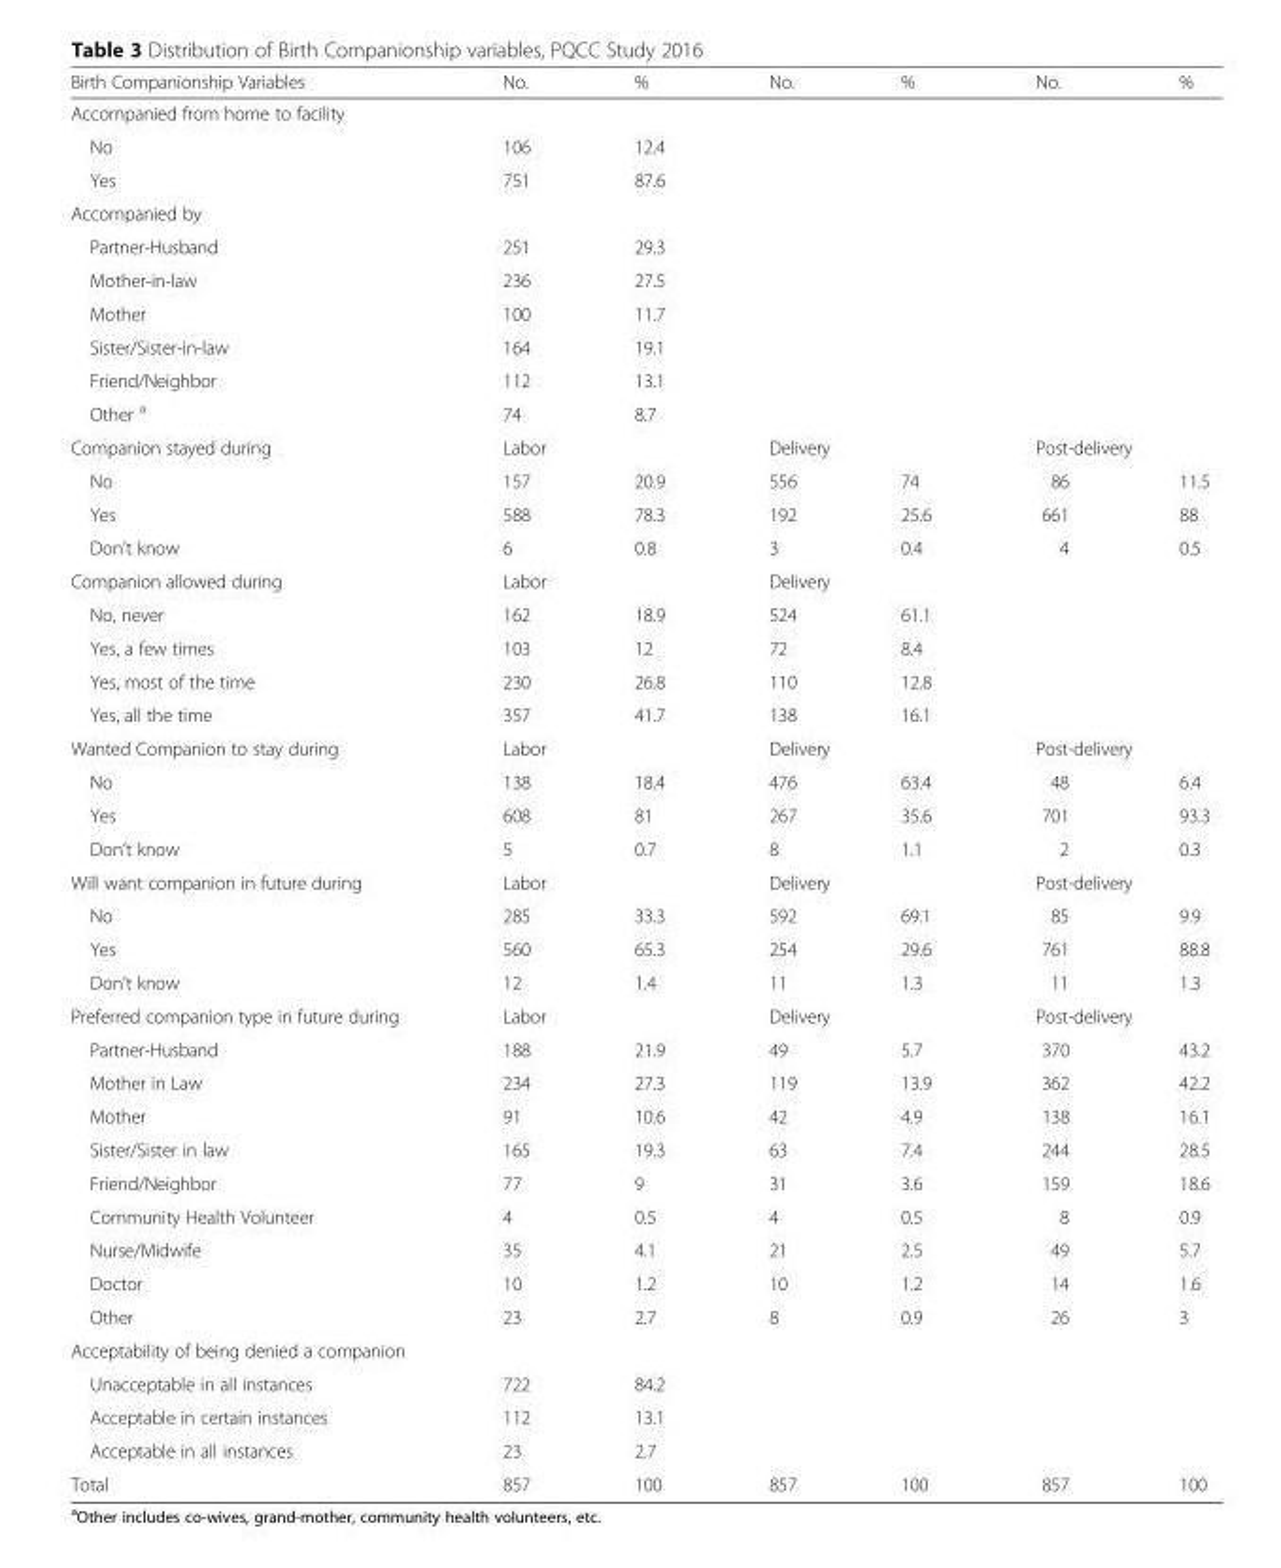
<table><thead><tr><td>Birth Companionship Variables</td><td>No.</td><td>%</td><td>No.</td><td>%</td><td>No.</td><td>%</td></tr></thead><tbody><tr><td colspan="7">Accompanied from home to facility</td></tr><tr><td>No</td><td>106</td><td>12.4</td><td></td><td></td><td></td><td></td></tr><tr><td>Yes</td><td>751</td><td>87.6</td><td></td><td></td><td></td><td></td></tr><tr><td colspan="7">Accompanied by</td></tr><tr><td>Partner-Husband</td><td>251</td><td>29.3</td><td></td><td></td><td></td><td></td></tr><tr><td>Mother-in-law</td><td>236</td><td>27.5</td><td></td><td></td><td></td><td></td></tr><tr><td>Mother</td><td>100</td><td>11.7</td><td></td><td></td><td></td><td></td></tr><tr><td>Sister/Sister-in-law</td><td>164</td><td>19.1</td><td></td><td></td><td></td><td></td></tr><tr><td>Friend/Neighbor</td><td>112</td><td>13.1</td><td></td><td></td><td></td><td></td></tr><tr><td>Other <sup>a</sup></td><td>74</td><td>8.7</td><td></td><td></td><td></td><td></td></tr><tr><td>Companion stayed during</td><td colspan="2">Labor</td><td colspan="2">Delivery</td><td colspan="2">Post-delivery</td></tr><tr><td>No</td><td>157</td><td>20.9</td><td>556</td><td>74</td><td>86</td><td>11.5</td></tr><tr><td>Yes</td><td>588</td><td>78.3</td><td>192</td><td>25.6</td><td>661</td><td>88</td></tr><tr><td>Don’t know</td><td>6</td><td>0.8</td><td>3</td><td>0.4</td><td>4</td><td>0.5</td></tr><tr><td>Companion allowed during</td><td colspan="2">Labor</td><td colspan="2">Delivery</td><td></td><td></td></tr><tr><td>No, never</td><td>162</td><td>18.9</td><td>524</td><td>61.1</td><td></td><td></td></tr><tr><td>Yes, a few times</td><td>103</td><td>12</td><td>72</td><td>8.4</td><td></td><td></td></tr><tr><td>Yes, most of the time</td><td>230</td><td>26.8</td><td>110</td><td>12.8</td><td></td><td></td></tr><tr><td>Yes, all the time</td><td>357</td><td>41.7</td><td>138</td><td>16.1</td><td></td><td></td></tr><tr><td>Wanted Companion to stay during</td><td colspan="2">Labor</td><td colspan="2">Delivery</td><td colspan="2">Post-delivery</td></tr><tr><td>No</td><td>138</td><td>18.4</td><td>476</td><td>63.4</td><td>48</td><td>6.4</td></tr><tr><td>Yes</td><td>608</td><td>81</td><td>267</td><td>35.6</td><td>701</td><td>93.3</td></tr><tr><td>Don’t know</td><td>5</td><td>0.7</td><td>8</td><td>1.1</td><td>2</td><td>0.3</td></tr><tr><td>Will want companion in future during</td><td colspan="2">Labor</td><td colspan="2">Delivery</td><td colspan="2">Post-delivery</td></tr><tr><td>No</td><td>285</td><td>33.3</td><td>592</td><td>69.1</td><td>85</td><td>9.9</td></tr><tr><td>Yes</td><td>560</td><td>65.3</td><td>254</td><td>29.6</td><td>761</td><td>88.8</td></tr><tr><td>Don’t know</td><td>12</td><td>1.4</td><td>11</td><td>1.3</td><td>11</td><td>1.3</td></tr><tr><td>Preferred companion type in future during</td><td colspan="2">Labor</td><td colspan="2">Delivery</td><td colspan="2">Post-delivery</td></tr><tr><td>Partner-Husband</td><td>188</td><td>21.9</td><td>49</td><td>5.7</td><td>370</td><td>43.2</td></tr><tr><td>Mother in Law</td><td>234</td><td>27.3</td><td>119</td><td>13.9</td><td>362</td><td>42.2</td></tr><tr><td>Mother</td><td>91</td><td>10.6</td><td>42</td><td>4.9</td><td>138</td><td>16.1</td></tr><tr><td>Sister/Sister in law</td><td>165</td><td>19.3</td><td>63</td><td>7.4</td><td>244</td><td>28.5</td></tr><tr><td>Friend/Neighbor</td><td>77</td><td>9</td><td>31</td><td>3.6</td><td>159</td><td>18.6</td></tr><tr><td>Community Health Volunteer</td><td>4</td><td>0.5</td><td>4</td><td>0.5</td><td>8</td><td>0.9</td></tr><tr><td>Nurse/Midwife</td><td>35</td><td>4.1</td><td>21</td><td>2.5</td><td>49</td><td>5.7</td></tr><tr><td>Doctor</td><td>10</td><td>1.2</td><td>10</td><td>1.2</td><td>14</td><td>1.6</td></tr><tr><td>Other</td><td>23</td><td>2.7</td><td>8</td><td>0.9</td><td>26</td><td>3</td></tr><tr><td colspan="7">Acceptability of being denied a companion</td></tr><tr><td>Unacceptable in all instances</td><td>722</td><td>84.2</td><td></td><td></td><td></td><td></td></tr><tr><td>Acceptable in certain instances</td><td>112</td><td>13.1</td><td></td><td></td><td></td><td></td></tr><tr><td>Acceptable in all instances</td><td>23</td><td>2.7</td><td></td><td></td><td></td><td></td></tr><tr><td>Total</td><td>857</td><td>100</td><td>857</td><td>100</td><td>857</td><td>100</td></tr></tbody></table>